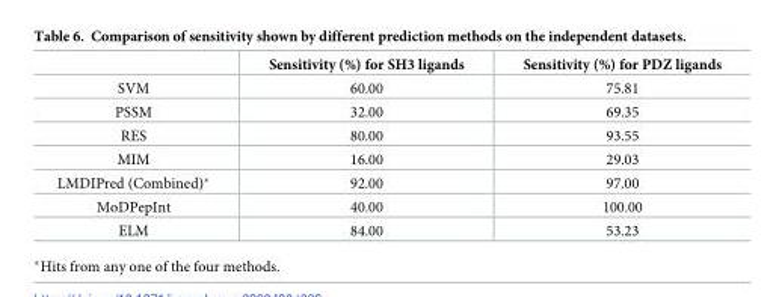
<table><thead><tr><td></td><td>Sensitivity (%) for SH3 ligands</td><td>Sensitivity (%) for PDZ ligands</td></tr></thead><tbody><tr><td>SVM</td><td>60.00</td><td>75.81</td></tr><tr><td>PSSM</td><td>32.00</td><td>69.35</td></tr><tr><td>RES</td><td>80.00</td><td>93.55</td></tr><tr><td>MIM</td><td>16.00</td><td>29.03</td></tr><tr><td>LMDIPred (Combined)*</td><td>92.00</td><td>97.00</td></tr><tr><td>MoDPepInt</td><td>40.00</td><td>100.00</td></tr><tr><td>ELM</td><td>84.00</td><td>53.23</td></tr></tbody></table>